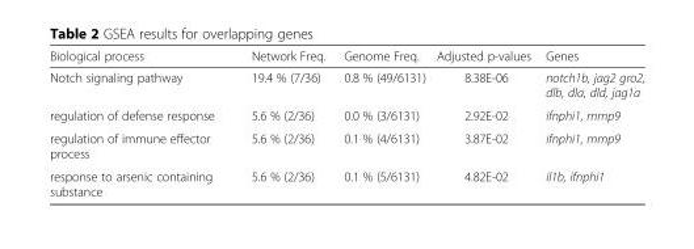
<table><thead><tr><td>Biological process</td><td>Network Freq.</td><td>Genome Freq.</td><td>Adjusted p-values</td><td>Genes</td></tr></thead><tbody><tr><td>Notch signaling pathway</td><td>19.4 % (7/36)</td><td>0.8 % (49/6131)</td><td>8.38E-06</td><td>notch1b, jag2 gro2, dlb, dla, dld, jag1a</td></tr><tr><td>regulation of defense response</td><td>5.6 % (2/36)</td><td>0.0 % (3/6131)</td><td>2.92E-02</td><td>ifnphi1, mmp9</td></tr><tr><td>regulation of immune effector process</td><td>5.6 % (2/36)</td><td>0.1 % (4/6131)</td><td>3.87E-02</td><td>ifnphi1, mmp9</td></tr><tr><td>response to arsenic containing substance</td><td>5.6 % (2/36)</td><td>0.1 % (5/6131)</td><td>4.82E-02</td><td>il1b, ifnphi1</td></tr></tbody></table>